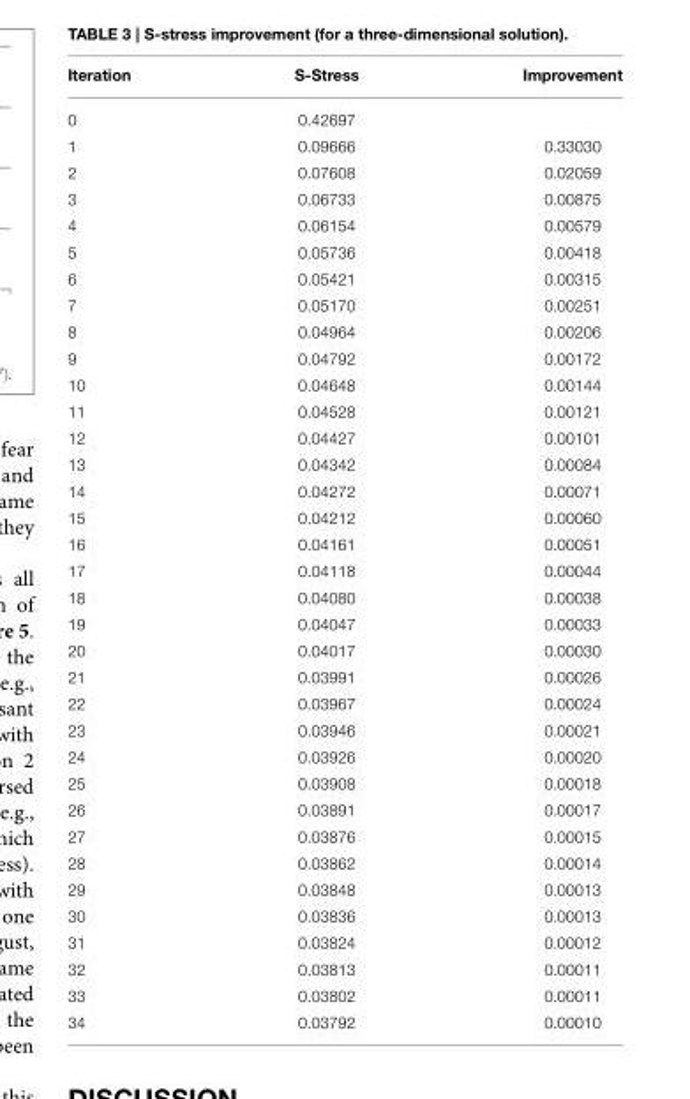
<table><thead><tr><td>Iteration</td><td>S-Stress</td><td>Improvement</td></tr></thead><tbody><tr><td>0</td><td>0.42697</td><td></td></tr><tr><td>1</td><td>0.09666</td><td>0.33030</td></tr><tr><td>2</td><td>0.07608</td><td>0.02059</td></tr><tr><td>3</td><td>0.06733</td><td>0.00875</td></tr><tr><td>4</td><td>0.06154</td><td>0.00579</td></tr><tr><td>5</td><td>0.05736</td><td>0.00418</td></tr><tr><td>6</td><td>0.05421</td><td>0.00315</td></tr><tr><td>7</td><td>0.05170</td><td>0.00251</td></tr><tr><td>8</td><td>0.04964</td><td>0.00206</td></tr><tr><td>9</td><td>0.04792</td><td>0.00172</td></tr><tr><td>10</td><td>0.04648</td><td>0.00144</td></tr><tr><td>11</td><td>0.04528</td><td>0.00121</td></tr><tr><td>12</td><td>0.04427</td><td>0.00101</td></tr><tr><td>13</td><td>0.04342</td><td>0.00084</td></tr><tr><td>14</td><td>0.04272</td><td>0.00071</td></tr><tr><td>15</td><td>0.04212</td><td>0.00060</td></tr><tr><td>16</td><td>0.04161</td><td>0.00051</td></tr><tr><td>17</td><td>0.04118</td><td>0.00044</td></tr><tr><td>18</td><td>0.04080</td><td>0.00038</td></tr><tr><td>19</td><td>0.04047</td><td>0.00033</td></tr><tr><td>20</td><td>0.04017</td><td>0.00030</td></tr><tr><td>21</td><td>0.03991</td><td>0.00026</td></tr><tr><td>22</td><td>0.03967</td><td>0.00024</td></tr><tr><td>23</td><td>0.03946</td><td>0.00021</td></tr><tr><td>24</td><td>0.03926</td><td>0.00020</td></tr><tr><td>25</td><td>0.03908</td><td>0.00018</td></tr><tr><td>26</td><td>0.03891</td><td>0.00017</td></tr><tr><td>27</td><td>0.03876</td><td>0.00015</td></tr><tr><td>28</td><td>0.03862</td><td>0.00014</td></tr><tr><td>29</td><td>0.03848</td><td>0.00013</td></tr><tr><td>30</td><td>0.03836</td><td>0.00013</td></tr><tr><td>31</td><td>0.03824</td><td>0.00012</td></tr><tr><td>32</td><td>0.03813</td><td>0.00011</td></tr><tr><td>33</td><td>0.03802</td><td>0.00011</td></tr><tr><td>34</td><td>0.03792</td><td>0.00010</td></tr></tbody></table>